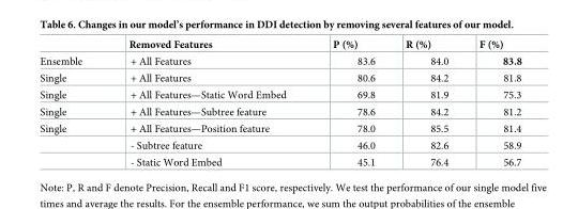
<table><thead><tr><td></td><td>Removed Features</td><td>P (%)</td><td>R (%)</td><td>F (%)</td></tr></thead><tbody><tr><td>Ensemble</td><td>+ All Features</td><td>83.6</td><td>84.0</td><td>83.8</td></tr><tr><td>Single</td><td>+ All Features</td><td>80.6</td><td>84.2</td><td>81.8</td></tr><tr><td>Single</td><td>+ All Features—Static Word Embed</td><td>69.8</td><td>81.9</td><td>75.3</td></tr><tr><td>Single</td><td>+ All Features—Subtree feature</td><td>78.6</td><td>84.2</td><td>81.2</td></tr><tr><td rowspan="3">Single</td><td>+ All Features—Position feature</td><td>78.0</td><td>85.5</td><td>81.4</td></tr><tr><td>- Subtree feature</td><td>46.0</td><td>82.6</td><td>58.9</td></tr><tr><td>- Static Word Embed</td><td>45.1</td><td>76.4</td><td>56.7</td></tr></tbody></table>